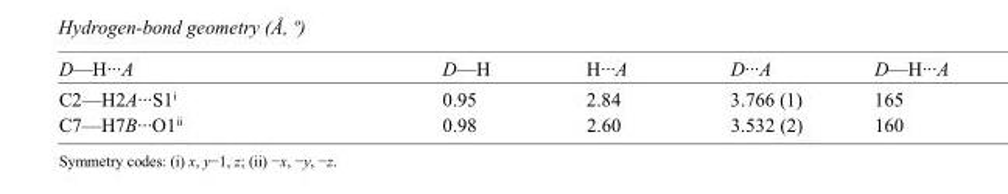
<table><tbody><tr><td>D—H···A</td><td>D—H</td><td>H···A</td><td>D···A</td><td>D—H···A</td></tr><tr><td>C2—H2A···S1<sup>i</sup></td><td>0.95</td><td>2.84</td><td>3.766 (1)</td><td>165</td></tr><tr><td>C7—H7B···O1<sup>ii</sup></td><td>0.98</td><td>2.60</td><td>3.532 (2)</td><td>160</td></tr></tbody></table>